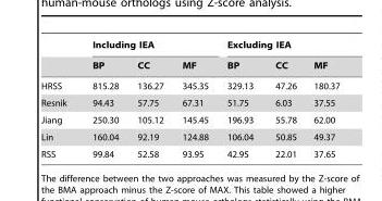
<table><thead><tr><td rowspan="2"></td><td colspan="3">Including IEA</td><td colspan="3">Excluding IEA</td></tr><tr><td>BP</td><td>CC</td><td>MF</td><td>BP</td><td>CC</td><td>MF</td></tr></thead><tbody><tr><td>HRSS</td><td>815.28</td><td>136.27</td><td>345.35</td><td>329.13</td><td>47.26</td><td>180.37</td></tr><tr><td>Resnik</td><td>94.43</td><td>57.75</td><td>67.31</td><td>51.75</td><td>6.03</td><td>37.55</td></tr><tr><td>Jiang</td><td>250.30</td><td>105.12</td><td>145.45</td><td>196.93</td><td>55.78</td><td>62.00</td></tr><tr><td>Lin</td><td>160.04</td><td>92.19</td><td>124.88</td><td>106.04</td><td>50.85</td><td>49.37</td></tr><tr><td>RSS</td><td>99.84</td><td>52.58</td><td>93.95</td><td>42.95</td><td>22.01</td><td>37.65</td></tr></tbody></table>